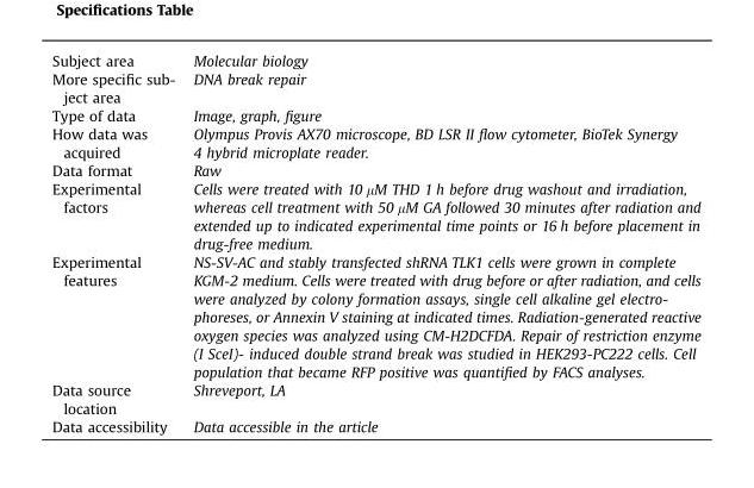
<table><tbody><tr><td>Subject area</td><td>Molecular biology</td></tr><tr><td>More specific sub- ject area</td><td>DNA break repair</td></tr><tr><td>Type of data</td><td>Image, graph, figure</td></tr><tr><td>How data was acquired</td><td>Olympus Provis AX70 microscope, BD LSR II flow cytometer, BioTek Synergy 4 hybrid microplate reader.</td></tr><tr><td>Data format</td><td>Raw</td></tr><tr><td>Experimental factors</td><td>Cells were treated with 10 µM THD 1 h before drug washout and irradiation, whereas cell treatment with 50 µM GA followed 30 minutes after radiation and extended up to indicated experimental time points or 16 h before placement in drug-free medium.</td></tr><tr><td>Experimental features</td><td>NS-SV-AC and stably transfected shRNA TLK1 cells were grown in complete KGM-2 medium. Cells were treated with drug before or after radiation, and cells were analyzed by colony formation assays, single cell alkaline gel electro- phoreses, or Annexin V staining at indicated times. Radiation-generated reactive oxygen species was analyzed using CM-H2DCFDA. Repair of restriction enzyme (I SceI)- induced double strand break was studied in HEK293-PC222 cells. Cell population that became RFP positive was quantified by FACS analyses.</td></tr><tr><td>Data source location</td><td>Shreveport, LA</td></tr><tr><td>Data accessibility</td><td>Data accessible in the article</td></tr></tbody></table>